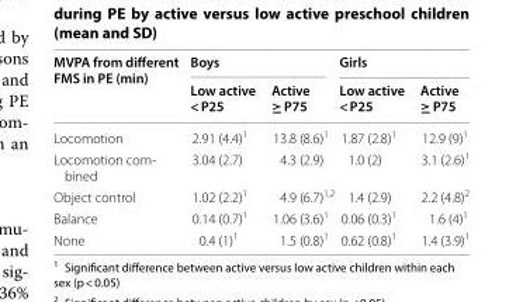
<table><thead><tr><td rowspan="2">MVPA from different FMS in PE (min)</td><td colspan="2">Boys</td><td colspan="2">Girls</td></tr><tr><td>Low active &lt; P25</td><td>Active ≥ P75</td><td>Low active &lt; P25</td><td>Active ≥ P75</td></tr></thead><tbody><tr><td>Locomotion</td><td>2.91 (4.4)<sup>1</sup></td><td>13.8 (8.6)<sup>1</sup></td><td>1.87 (2.8)<sup>1</sup></td><td>12.9 (9)<sup>1</sup></td></tr><tr><td>Locomotion com‑ bined</td><td>3.04 (2.7)</td><td>4.3 (2.9)</td><td>1.0 (2)</td><td>3.1 (2.6)<sup>1</sup></td></tr><tr><td>Object control</td><td>1.02 (2.2)<sup>1</sup></td><td>4.9 (6.7)<sup>1,2</sup></td><td>1.4 (2.9)</td><td>2.2 (4.8)<sup>2</sup></td></tr><tr><td>Balance</td><td>0.14 (0.7)<sup>1</sup></td><td>1.06 (3.6)<sup>1</sup></td><td>0.06 (0.3)<sup>1</sup></td><td>1.6 (4)<sup>1</sup></td></tr><tr><td>None</td><td>0.4 (1)<sup>1</sup></td><td>1.5 (0.8)<sup>1</sup></td><td>0.62 (0.8)<sup>1</sup></td><td>1.4 (3.9)<sup>1</sup></td></tr></tbody></table>